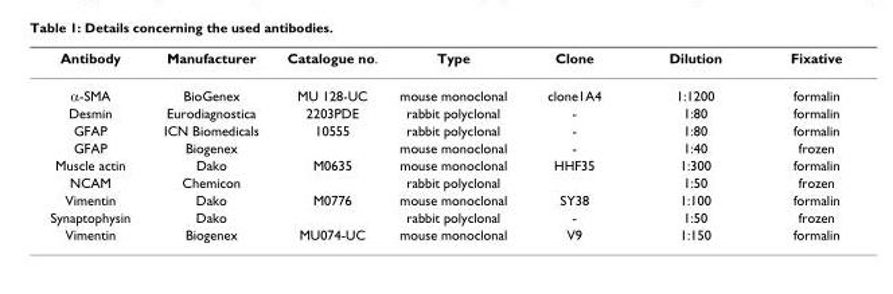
<table><thead><tr><td>Antibody</td><td>Manufacturer</td><td>Catalogue no.</td><td>Type</td><td>Clone</td><td>Dilution</td><td>Fixative</td></tr></thead><tbody><tr><td>α-SMA</td><td>BioGenex</td><td>MU 128-UC</td><td>mouse monoclonal</td><td>clone1A4</td><td>1:1200</td><td>formalin</td></tr><tr><td>Desmin</td><td>Eurodiagnostica</td><td>2203PDE</td><td>rabbit polyclonal</td><td>-</td><td>1:80</td><td>formalin</td></tr><tr><td>GFAP</td><td>ICN Biomedicals</td><td>10555</td><td>rabbit polyclonal</td><td>-</td><td>1:80</td><td>formalin</td></tr><tr><td>GFAP</td><td>Biogenex</td><td></td><td>mouse monoclonal</td><td>-</td><td>1:40</td><td>frozen</td></tr><tr><td>Muscle actin</td><td>Dako</td><td>M0635</td><td>mouse monoclonal</td><td>HHF35</td><td>1:300</td><td>formalin</td></tr><tr><td>NCAM</td><td>Chemicon</td><td></td><td>rabbit polyclonal</td><td></td><td>1:50</td><td>frozen</td></tr><tr><td>Vimentin</td><td>Dako</td><td>M0776</td><td>mouse monoclonal</td><td>SY38</td><td>1:100</td><td>formalin</td></tr><tr><td>Synaptophysin</td><td>Dako</td><td></td><td>rabbit polyclonal</td><td>-</td><td>1:50</td><td>frozen</td></tr><tr><td>Vimentin</td><td>Biogenex</td><td>MU074-UC</td><td>mouse monoclonal</td><td>V9</td><td>1:150</td><td>formalin</td></tr></tbody></table>